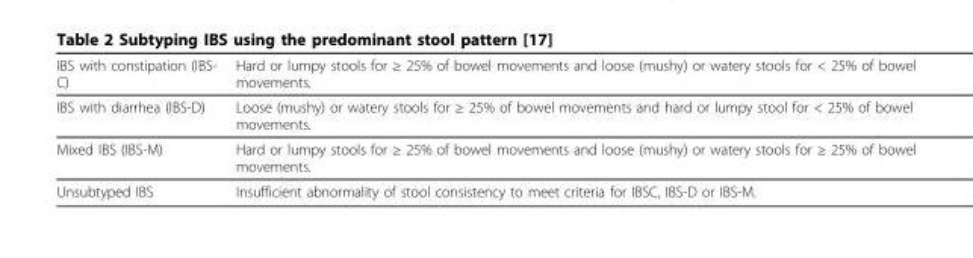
<table><thead><tr><td>IBS with constipation (IBS- C)</td><td>Hard or lumpy stools for ≥ 25% of bowel movements and loose (mushy) or watery stools for &lt; 25% of bowel movements.</td></tr></thead><tbody><tr><td>IBS with diarrhea (IBS-D)</td><td>Loose (mushy) or watery stools for ≥ 25% of bowel movements and hard or lumpy stool for &lt; 25% of bowel movements.</td></tr><tr><td>Mixed IBS (IBS-M)</td><td>Hard or lumpy stools for ≥ 25% of bowel movements and loose (mushy) or watery stools for ≥ 25% of bowel movements.</td></tr><tr><td>Unsubtyped IBS</td><td>Insufficient abnormality of stool consistency to meet criteria for IBSC, IBS-D or IBS-M.</td></tr></tbody></table>